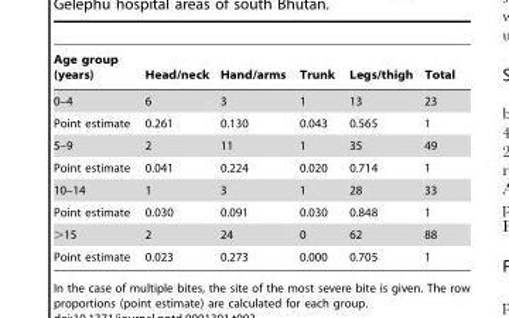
<table><thead><tr><td>Age group (years)</td><td>Head/neck</td><td>Hand/arms</td><td>Trunk</td><td>Legs/thigh</td><td>Total</td></tr></thead><tbody><tr><td>0–4</td><td>6</td><td>3</td><td>1</td><td>13</td><td>23</td></tr><tr><td>Point estimate</td><td>0.261</td><td>0.130</td><td>0.043</td><td>0.565</td><td>1</td></tr><tr><td>5–9</td><td>2</td><td>11</td><td>1</td><td>35</td><td>49</td></tr><tr><td>Point estimate</td><td>0.041</td><td>0.224</td><td>0.020</td><td>0.714</td><td>1</td></tr><tr><td>10–14</td><td>1</td><td>3</td><td>1</td><td>28</td><td>33</td></tr><tr><td>Point estimate</td><td>0.030</td><td>0.091</td><td>0.030</td><td>0.848</td><td>1</td></tr><tr><td>&gt;15</td><td>2</td><td>24</td><td>0</td><td>62</td><td>88</td></tr><tr><td>Point estimate</td><td>0.023</td><td>0.273</td><td>0.000</td><td>0.705</td><td>1</td></tr></tbody></table>